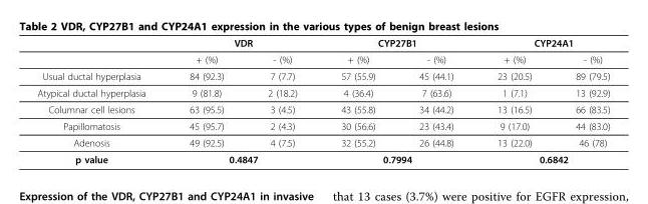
<table><thead><tr><td rowspan="2"></td><td colspan="2">VDR</td><td colspan="2">CYP27B1</td><td colspan="2">CYP24A1</td></tr><tr><td>+ (%)</td><td>- (%)</td><td>+ (%)</td><td>- (%)</td><td>+ (%)</td><td>- (%)</td></tr></thead><tbody><tr><td>Usual ductal hyperplasia</td><td>84 (92.3)</td><td>7 (7.7)</td><td>57 (55.9)</td><td>45 (44.1)</td><td>23 (20.5)</td><td>89 (79.5)</td></tr><tr><td>Atypical ductal hyperplasia</td><td>9 (81.8)</td><td>2 (18.2)</td><td>4 (36.4)</td><td>7 (63.6)</td><td>1 (7.1)</td><td>13 (92.9)</td></tr><tr><td>Columnar cell lesions</td><td>63 (95.5)</td><td>3 (4.5)</td><td>43 (55.8)</td><td>34 (44.2)</td><td>13 (16.5)</td><td>66 (83.5)</td></tr><tr><td>Papillomatosis</td><td>45 (95.7)</td><td>2 (4.3)</td><td>30 (56.6)</td><td>23 (43.4)</td><td>9 (17.0)</td><td>44 (83.0)</td></tr><tr><td>Adenosis</td><td>49 (92.5)</td><td>4 (7.5)</td><td>32 (55.2)</td><td>26 (44.8)</td><td>13 (22.0)</td><td>46 (78)</td></tr><tr><td>p value</td><td colspan="2">0.4847</td><td colspan="2">0.7994</td><td colspan="2">0.6842</td></tr></tbody></table>